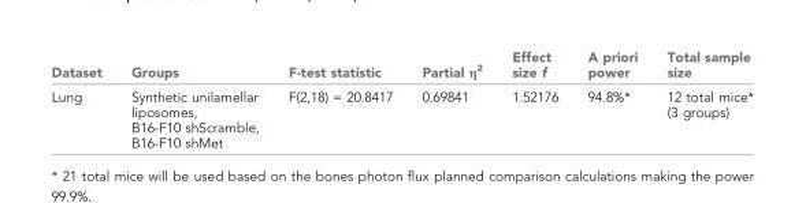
<table><thead><tr><td>Dataset</td><td>Groups</td><td>F-test statistic</td><td>Partial η<sup>2</sup></td><td>Effect size f</td><td>A priori power</td><td>Total sample size</td></tr></thead><tbody><tr><td>Lung</td><td>Synthetic unilamellar liposomes, B16-F10 shScramble, B16-F10 shMet</td><td>F(2,18) = 20.8417</td><td>0.69841</td><td>1.52176</td><td>94.8%*</td><td>12 total mice* (3 groups)</td></tr></tbody></table>